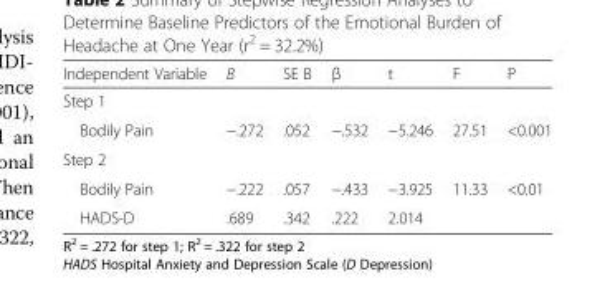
<table><thead><tr><td>Independent Variable</td><td>B</td><td>SE B</td><td>β</td><td>t</td><td>F</td><td>P</td></tr></thead><tbody><tr><td colspan="7">Step 1</td></tr><tr><td>Bodily Pain</td><td>−.272</td><td>.052</td><td>−.532</td><td>−5.246</td><td>27.51</td><td>&lt;0.001</td></tr><tr><td colspan="7">Step 2</td></tr><tr><td>Bodily Pain</td><td>−.222</td><td>.057</td><td>−.433</td><td>−3.925</td><td rowspan="2">11.33</td><td rowspan="2">&lt;0.01</td></tr><tr><td>HADS-D</td><td>.689</td><td>.342</td><td>.222</td><td>2.014</td></tr></tbody></table>